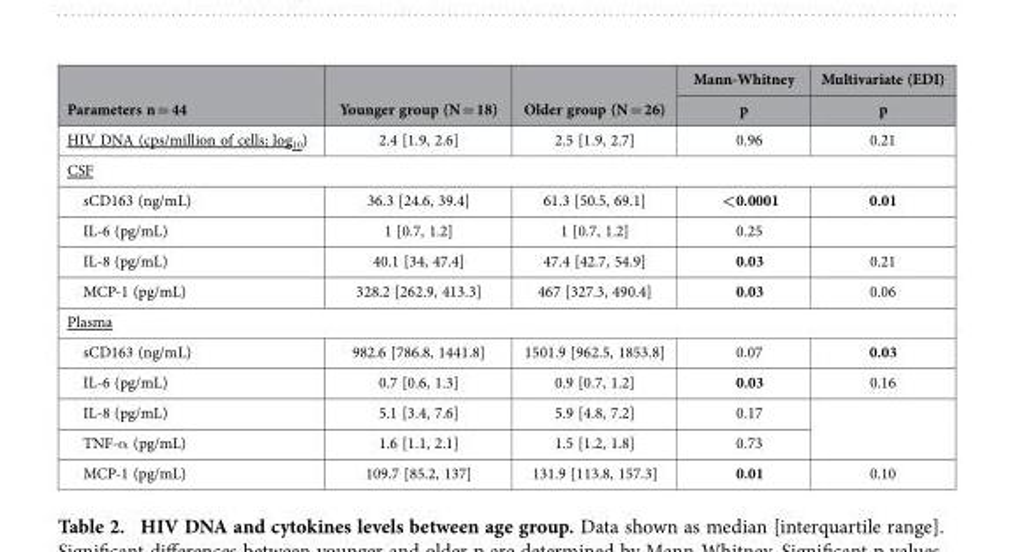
<table><thead><tr><td rowspan="2">Parameters n = 44</td><td rowspan="2">Younger group (N = 18)</td><td rowspan="2">Older group (N = 26)</td><td rowspan="2">Mann-Whitney p</td><td rowspan="2">Multivariate (EDI) p</td></tr><tr></tr></thead><tbody><tr><td>HIV DNA (cps/million of cells; log<sub>10</sub>)</td><td>2.4 [1.9, 2.6]</td><td>2.5 [1.9, 2.7]</td><td>0.96</td><td>0.21</td></tr><tr><td colspan="5">CSF</td></tr><tr><td>sCD163 (ng/mL)</td><td>36.3 [24.6, 39.4]</td><td>61.3 [50.5, 69.1]</td><td>&lt;0.0001</td><td>0.01</td></tr><tr><td>IL-6 (pg/mL)</td><td>1 [0.7, 1.2]</td><td>1 [0.7, 1.2]</td><td>0.25</td><td></td></tr><tr><td>IL-8 (pg/mL)</td><td>40.1 [34, 47.4]</td><td>47.4 [42.7, 54.9]</td><td>0.03</td><td>0.21</td></tr><tr><td>MCP-1 (pg/mL)</td><td>328.2 [262.9, 413.3]</td><td>467 [327.3, 490.4]</td><td>0.03</td><td>0.06</td></tr><tr><td colspan="5">Plasma</td></tr><tr><td>sCD163 (ng/mL)</td><td>982.6 [786.8, 1441.8]</td><td>1501.9 [962.5, 1853.8]</td><td>0.07</td><td>0.03</td></tr><tr><td>IL-6 (pg/mL)</td><td>0.7 [0.6, 1.3]</td><td>0.9 [0.7, 1.2]</td><td>0.03</td><td>0.16</td></tr><tr><td>IL-8 (pg/mL)</td><td>5.1 [3.4, 7.6]</td><td>5.9 [4.8, 7.2]</td><td>0.17</td><td></td></tr><tr><td>TNF-α (pg/mL)</td><td>1.6 [1.1, 2.1]</td><td>1.5 [1.2, 1.8]</td><td>0.73</td><td></td></tr><tr><td>MCP-1 (pg/mL)</td><td>109.7 [85.2, 137]</td><td>131.9 [113.8, 157.3]</td><td>0.01</td><td>0.10</td></tr></tbody></table>